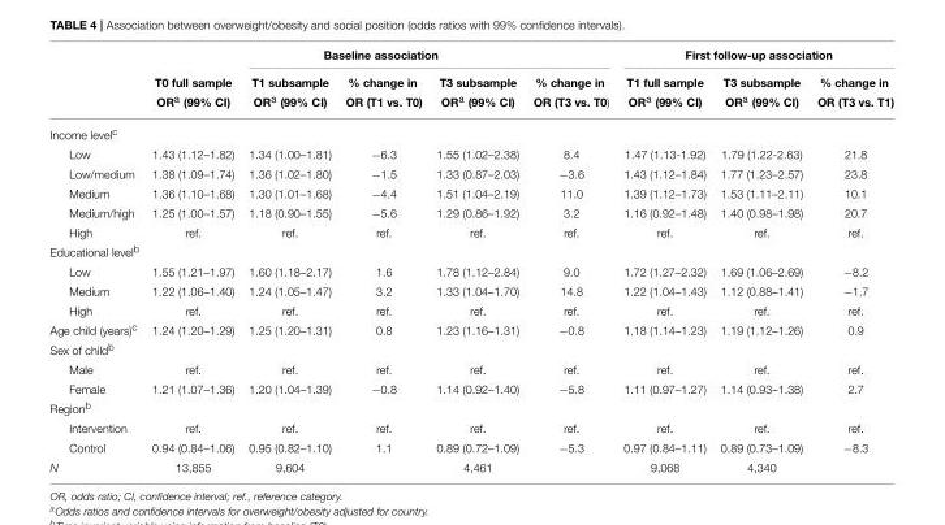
<table><thead><tr><td rowspan="3"></td><td colspan="5">Baseline association</td><td colspan="3">First follow-up association</td></tr><tr><td rowspan="2">T0 full sample OR<sup>a</sup> (99% CI)</td><td rowspan="2">T1 subsample OR<sup>a</sup> (99% CI)</td><td rowspan="2">% change in OR (T1 vs. T0)</td><td rowspan="2">T3 subsample OR<sup>a</sup> (99% CI)</td><td rowspan="2">% change in OR (T3 vs. T0)</td><td rowspan="2">T1 full sample OR<sup>a</sup> (99% CI)</td><td rowspan="2">T3 subsample OR<sup>a</sup> (99% CI)</td><td rowspan="2">% change in OR (T3 vs. T1)</td></tr><tr></tr></thead><tbody><tr><td colspan="9">Income level<sup>c</sup></td></tr><tr><td>Low</td><td>1.43 (1.12–1.82)</td><td>1.34 (1.00–1.81)</td><td>−6.3</td><td>1.55 (1.02–2.38)</td><td>8.4</td><td>1.47 (1.13-1.92)</td><td>1.79 (1.22-2.63)</td><td>21.8</td></tr><tr><td>Low/medium</td><td>1.38 (1.09–1.74)</td><td>1.36 (1.02–1.80)</td><td>−1.5</td><td>1.33 (0.87–2.03)</td><td>−3.6</td><td>1.43 (1.12–1.84)</td><td>1.77 (1.23–2.57)</td><td>23.8</td></tr><tr><td>Medium</td><td>1.36 (1.10–1.68)</td><td>1.30 (1.01–1.68)</td><td>−4.4</td><td>1.51 (1.04–2.19)</td><td>11.0</td><td>1.39 (1.12–1.73)</td><td>1.53 (1.11–2.11)</td><td>10.1</td></tr><tr><td>Medium/high</td><td>1.25 (1.00–1.57)</td><td>1.18 (0.90–1.55)</td><td>−5.6</td><td>1.29 (0.86–1.92)</td><td>3.2</td><td>1.16 (0.92–1.48)</td><td>1.40 (0.98–1.98)</td><td>20.7</td></tr><tr><td>High</td><td>ref.</td><td>ref.</td><td>ref.</td><td>ref.</td><td>ref.</td><td>ref.</td><td>ref.</td><td>ref.</td></tr><tr><td colspan="9">Educational level<sup>b</sup></td></tr><tr><td>Low</td><td>1.55 (1.21–1.97)</td><td>1.60 (1.18–2.17)</td><td>1.6</td><td>1.78 (1.12–2.84)</td><td>9.0</td><td>1.72 (1.27–2.32)</td><td>1.69 (1.06–2.69)</td><td>−8.2</td></tr><tr><td>Medium</td><td>1.22 (1.06–1.40)</td><td>1.24 (1.05–1.47)</td><td>3.2</td><td>1.33 (1.04–1.70)</td><td>14.8</td><td>1.22 (1.04–1.43)</td><td>1.12 (0.88–1.41)</td><td>−1.7</td></tr><tr><td>High</td><td>ref.</td><td>ref.</td><td>ref.</td><td>ref.</td><td>ref.</td><td>ref.</td><td>ref.</td><td>ref.</td></tr><tr><td>Age child (years)<sup>c</sup></td><td>1.24 (1.20–1.29)</td><td>1.25 (1.20–1.31)</td><td>0.8</td><td>1.23 (1.16–1.31)</td><td>−0.8</td><td>1.18 (1.14–1.23)</td><td>1.19 (1.12–1.26)</td><td>0.9</td></tr><tr><td colspan="9">Sex of child<sup>b</sup></td></tr><tr><td>Male</td><td>ref.</td><td>ref.</td><td>ref.</td><td>ref.</td><td>ref.</td><td>ref.</td><td>ref.</td><td>ref.</td></tr><tr><td>Female</td><td>1.21 (1.07–1.36)</td><td>1.20 (1.04–1.39)</td><td>−0.8</td><td>1.14 (0.92–1.40)</td><td>−5.8</td><td>1.11 (0.97–1.27)</td><td>1.14 (0.93–1.38)</td><td>2.7</td></tr><tr><td colspan="9">Region<sup>b</sup></td></tr><tr><td>Intervention</td><td>ref.</td><td>ref.</td><td>ref.</td><td>ref.</td><td>ref.</td><td>ref.</td><td>ref.</td><td>ref.</td></tr><tr><td>Control</td><td>0.94 (0.84–1.06)</td><td>0.95 (0.82–1.10)</td><td>1.1</td><td>0.89 (0.72–1.09)</td><td>−5.3</td><td>0.97 (0.84–1.11)</td><td>0.89 (0.73–1.09)</td><td>−8.3</td></tr><tr><td>N</td><td>13,855</td><td>9,604</td><td></td><td>4,461</td><td></td><td>9,068</td><td>4,340</td><td></td></tr></tbody></table>